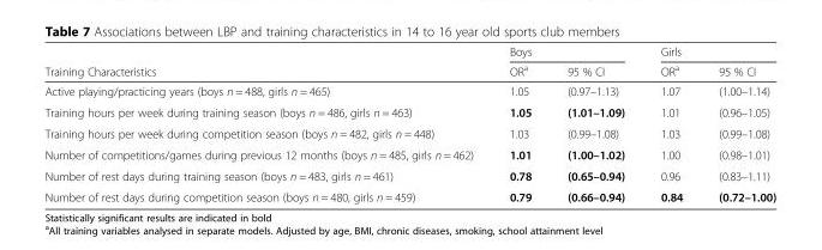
<table><thead><tr><td rowspan="2">Training Characteristics</td><td colspan="2">Boys</td><td colspan="2">Girls</td></tr><tr><td>OR<sup>a</sup></td><td>95 % CI</td><td>OR<sup>a</sup></td><td>95 % CI</td></tr></thead><tbody><tr><td>Active playing/practicing years (boys n = 488, girls n = 465)</td><td>1.05</td><td>(0.97–1.13)</td><td>1.07</td><td>(1.00–1.14)</td></tr><tr><td>Training hours per week during training season (boys n = 486, girls n = 463)</td><td>1.05</td><td>(1.01–1.09)</td><td>1.01</td><td>(0.96–1.05)</td></tr><tr><td>Training hours per week during competition season (boys n = 482, girls n = 448)</td><td>1.03</td><td>(0.99–1.08)</td><td>1.03</td><td>(0.99–1.08)</td></tr><tr><td>Number of competitions/games during previous 12 months (boys n = 485, girls n = 462)</td><td>1.01</td><td>(1.00–1.02)</td><td>1.00</td><td>(0.98–1.01)</td></tr><tr><td>Number of rest days during training season (boys n = 483, girls n = 461)</td><td>0.78</td><td>(0.65–0.94)</td><td>0.96</td><td>(0.83–1.11)</td></tr><tr><td>Number of rest days during competition season (boys n = 480, girls n = 459)</td><td>0.79</td><td>(0.66–0.94)</td><td>0.84</td><td>(0.72–1.00)</td></tr></tbody></table>